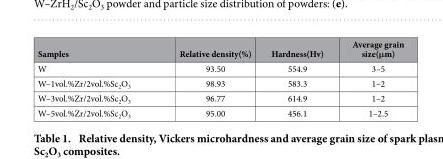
<table><thead><tr><td>Samples</td><td>Relative density(%)</td><td>Hardness(Hv)</td><td>Average grain size(μm)</td></tr></thead><tbody><tr><td>W</td><td>93.50</td><td>554.9</td><td>3–5</td></tr><tr><td>W–1vol.%Zr/2vol.%Sc<sub>2</sub>O<sub>3</sub></td><td>98.93</td><td>583.3</td><td>1–2</td></tr><tr><td>W–3vol.%Zr/2vol.%Sc<sub>2</sub>O<sub>3</sub></td><td>96.77</td><td>614.9</td><td>1–2</td></tr><tr><td>W–5vol.%Zr/2vol.%Sc<sub>2</sub>O<sub>3</sub></td><td>95.00</td><td>456.1</td><td>1–2.5</td></tr></tbody></table>